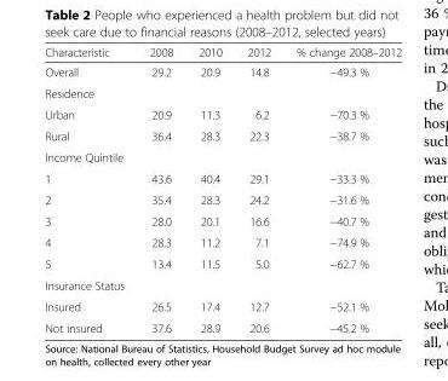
<table><thead><tr><td>Characteristic</td><td>2008</td><td>2010</td><td>2012</td><td>% change 2008–2012</td></tr></thead><tbody><tr><td>Overall</td><td>29.2</td><td>20.9</td><td>14.8</td><td>−49.3 %</td></tr><tr><td colspan="5">Residence</td></tr><tr><td>Urban</td><td>20.9</td><td>11.3</td><td>6.2</td><td>−70.3 %</td></tr><tr><td>Rural</td><td>36.4</td><td>28.3</td><td>22.3</td><td>−38.7 %</td></tr><tr><td colspan="5">Income Quintile</td></tr><tr><td>1</td><td>43.6</td><td>40.4</td><td>29.1</td><td>−33.3 %</td></tr><tr><td>2</td><td>35.4</td><td>28.3</td><td>24.2</td><td>−31.6 %</td></tr><tr><td>3</td><td>28.0</td><td>20.1</td><td>16.6</td><td>−40.7 %</td></tr><tr><td>4</td><td>28.3</td><td>11.2</td><td>7.1</td><td>−74.9 %</td></tr><tr><td>5</td><td>13.4</td><td>11.5</td><td>5.0</td><td>−62.7 %</td></tr><tr><td colspan="5">Insurance Status</td></tr><tr><td>Insured</td><td>26.5</td><td>17.4</td><td>12.7</td><td>−52.1 %</td></tr><tr><td>Not insured</td><td>37.6</td><td>28.9</td><td>20.6</td><td>−45.2 %</td></tr></tbody></table>